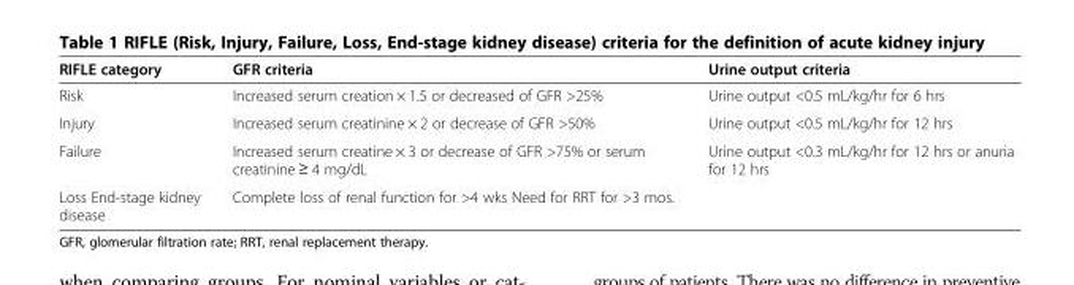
<table><thead><tr><td>RIFLE category</td><td>GFR criteria</td><td>Urine output criteria</td></tr></thead><tbody><tr><td>Risk</td><td>Increased serum creation × 1.5 or decreased of GFR &gt;25%</td><td>Urine output &lt;0.5 mL/kg/hr for 6 hrs</td></tr><tr><td>Injury</td><td>Increased serum creatinine × 2 or decrease of GFR &gt;50%</td><td>Urine output &lt;0.5 mL/kg/hr for 12 hrs</td></tr><tr><td>Failure</td><td>Increased serum creatine × 3 or decrease of GFR &gt;75% or serum creatinine ≥ 4 mg/dL</td><td>Urine output &lt;0.3 mL/kg/hr for 12 hrs or anuria for 12 hrs</td></tr><tr><td>Loss End-stage kidney disease</td><td colspan="2">Complete loss of renal function for &gt;4 wks Need for RRT for &gt;3 mos.</td></tr></tbody></table>